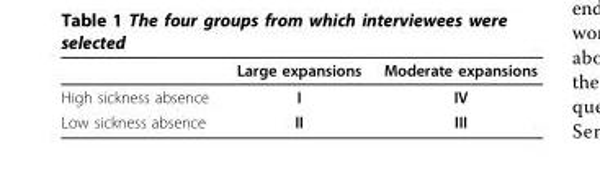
<table><thead><tr><td></td><td>Large expansions</td><td>Moderate expansions</td></tr></thead><tbody><tr><td>High sickness absence</td><td>I</td><td>IV</td></tr><tr><td>Low sickness absence</td><td>II</td><td>III</td></tr></tbody></table>